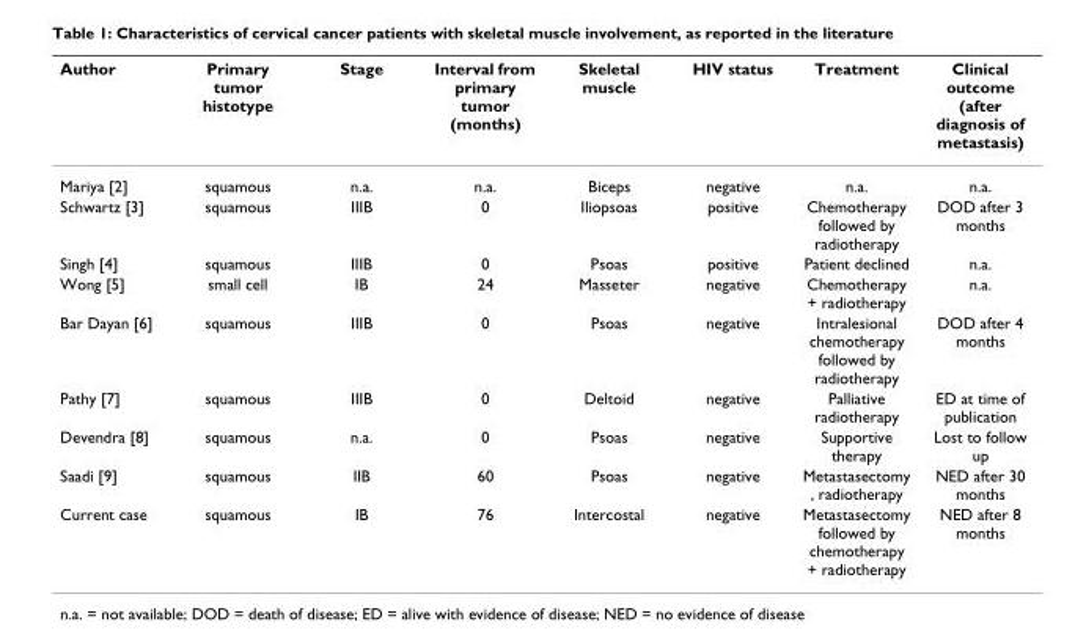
<table><thead><tr><td>Author</td><td>Primary tumor histotype</td><td>Stage</td><td>Interval from primary tumor (months)</td><td>Skeletal muscle</td><td>HIV status</td><td>Treatment</td><td>Clinical outcome (after diagnosis of metastasis)</td></tr></thead><tbody><tr><td>Mariya [2]</td><td>squamous</td><td>n.a.</td><td>n.a.</td><td>Biceps</td><td>negative</td><td>n.a.</td><td>n.a.</td></tr><tr><td>Schwartz [3]</td><td>squamous</td><td>IIIB</td><td>0</td><td>Iliopsoas</td><td>positive</td><td>Chemotherapy followed by radiotherapy</td><td>DOD after 3 months</td></tr><tr><td>Singh [4]</td><td>squamous</td><td>IIIB</td><td>0</td><td>Psoas</td><td>positive</td><td>Patient declined</td><td>n.a.</td></tr><tr><td>Wong [5]</td><td>small cell</td><td>IB</td><td>24</td><td>Masseter</td><td>negative</td><td>Chemotherapy + radiotherapy</td><td>n.a.</td></tr><tr><td>Bar Dayan [6]</td><td>squamous</td><td>IIIB</td><td>0</td><td>Psoas</td><td>negative</td><td>Intralesional chemotherapy followed by radiotherapy</td><td>DOD after 4 months</td></tr><tr><td>Pathy [7]</td><td>squamous</td><td>IIIB</td><td>0</td><td>Deltoid</td><td>negative</td><td>Palliative radiotherapy</td><td>ED at time of publication</td></tr><tr><td>Devendra [8]</td><td>squamous</td><td>n.a.</td><td>0</td><td>Psoas</td><td>negative</td><td>Supportive therapy</td><td>Lost to follow up</td></tr><tr><td>Saadi [9]</td><td>squamous</td><td>IIB</td><td>60</td><td>Psoas</td><td>negative</td><td>Metastasectomy , radiotherapy</td><td>NED after 30 months</td></tr><tr><td>Current case</td><td>squamous</td><td>IB</td><td>76</td><td>Intercostal</td><td>negative</td><td>Metastasectomy followed by chemotherapy + radiotherapy</td><td>NED after 8 months</td></tr></tbody></table>